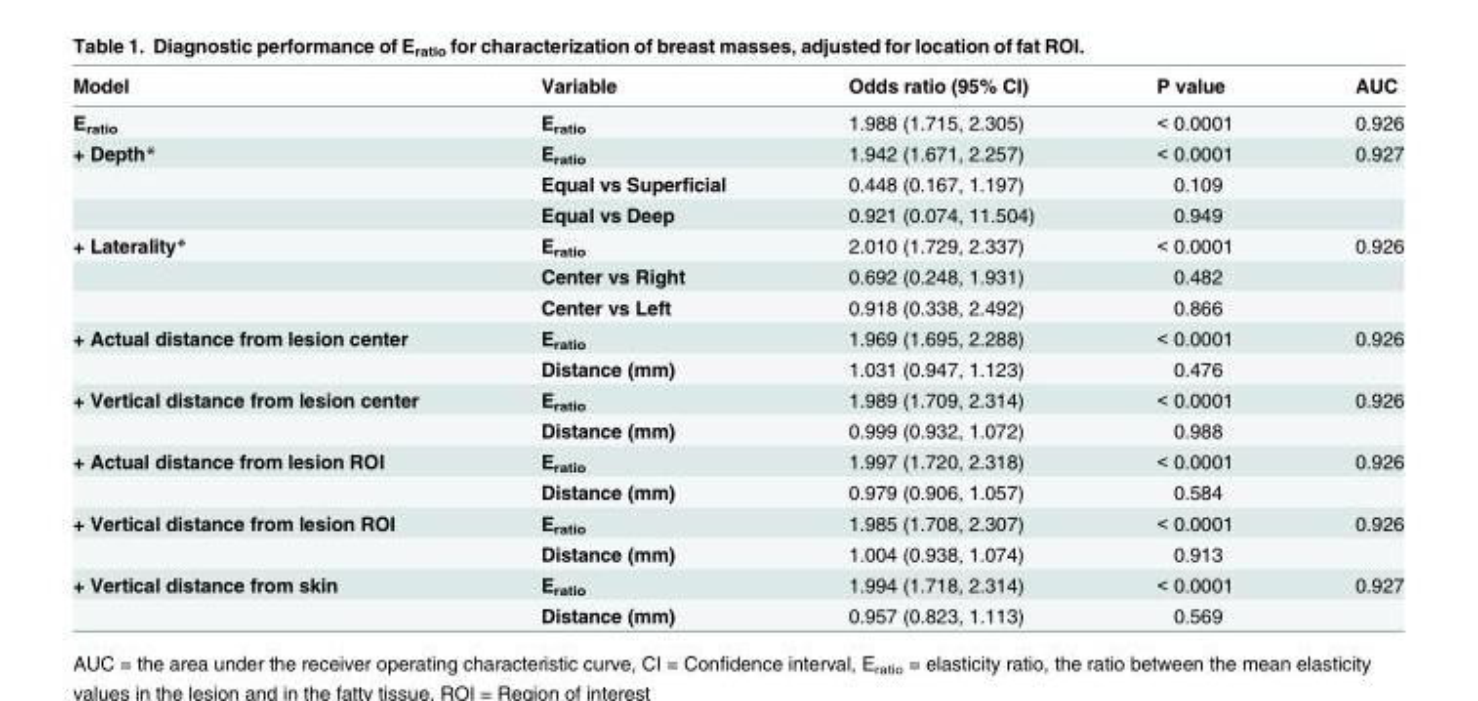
<table><thead><tr><td>Model</td><td>Variable</td><td>Odds ratio (95% CI)</td><td>P value</td><td>AUC</td></tr></thead><tbody><tr><td>E<sub>ratio</sub></td><td>E<sub>ratio</sub></td><td>1.988 (1.715, 2.305)</td><td>&lt; 0.0001</td><td>0.926</td></tr><tr><td rowspan="3">+ Depth*</td><td>E<sub>ratio</sub></td><td>1.942 (1.671, 2.257)</td><td>&lt; 0.0001</td><td>0.927</td></tr><tr><td>Equal vs Superficial</td><td>0.448 (0.167, 1.197)</td><td>0.109</td><td></td></tr><tr><td>Equal vs Deep</td><td>0.921 (0.074, 11.504)</td><td>0.949</td><td></td></tr><tr><td rowspan="3">+ Laterality*</td><td>E<sub>ratio</sub></td><td>2.010 (1.729, 2.337)</td><td>&lt; 0.0001</td><td>0.926</td></tr><tr><td>Center vs Right</td><td>0.692 (0.248, 1.931)</td><td>0.482</td><td></td></tr><tr><td>Center vs Left</td><td>0.918 (0.338, 2.492)</td><td>0.866</td><td></td></tr><tr><td rowspan="2">+ Actual distance from lesion center</td><td>E<sub>ratio</sub></td><td>1.969 (1.695, 2.288)</td><td>&lt; 0.0001</td><td>0.926</td></tr><tr><td>Distance (mm)</td><td>1.031 (0.947, 1.123)</td><td>0.476</td><td></td></tr><tr><td rowspan="2">+ Vertical distance from lesion center</td><td>E<sub>ratio</sub></td><td>1.989 (1.709, 2.314)</td><td>&lt; 0.0001</td><td>0.926</td></tr><tr><td>Distance (mm)</td><td>0.999 (0.932, 1.072)</td><td>0.988</td><td></td></tr><tr><td rowspan="2">+ Actual distance from lesion ROI</td><td>E<sub>ratio</sub></td><td>1.997 (1.720, 2.318)</td><td>&lt; 0.0001</td><td>0.926</td></tr><tr><td>Distance (mm)</td><td>0.979 (0.906, 1.057)</td><td>0.584</td><td></td></tr><tr><td rowspan="2">+ Vertical distance from lesion ROI</td><td>E<sub>ratio</sub></td><td>1.985 (1.708, 2.307)</td><td>&lt; 0.0001</td><td>0.926</td></tr><tr><td>Distance (mm)</td><td>1.004 (0.938, 1.074)</td><td>0.913</td><td></td></tr><tr><td rowspan="2">+ Vertical distance from skin</td><td>E<sub>ratio</sub></td><td>1.994 (1.718, 2.314)</td><td>&lt; 0.0001</td><td>0.927</td></tr><tr><td>Distance (mm)</td><td>0.957 (0.823, 1.113)</td><td>0.569</td><td></td></tr></tbody></table>